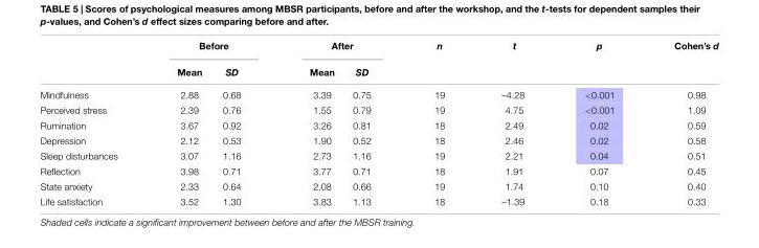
<table><thead><tr><td rowspan="2"></td><td colspan="2">Before</td><td colspan="2">After</td><td rowspan="2">n</td><td rowspan="2">t</td><td rowspan="2">p</td><td rowspan="2">Cohen’s d</td></tr><tr><td>Mean</td><td>SD</td><td>Mean</td><td>SD</td></tr></thead><tbody><tr><td>Mindfulness</td><td>2.88</td><td>0.68</td><td>3.39</td><td>0.75</td><td>19</td><td>–4.28</td><td>&lt;0.001</td><td>0.98</td></tr><tr><td>Perceived stress</td><td>2.39</td><td>0.76</td><td>1.55</td><td>0.79</td><td>19</td><td>4.75</td><td>&lt;0.001</td><td>1.09</td></tr><tr><td>Rumination</td><td>3.67</td><td>0.92</td><td>3.26</td><td>0.81</td><td>18</td><td>2.49</td><td>0.02</td><td>0.59</td></tr><tr><td>Depression</td><td>2.12</td><td>0.53</td><td>1.90</td><td>0.52</td><td>18</td><td>2.46</td><td>0.02</td><td>0.58</td></tr><tr><td>Sleep disturbances</td><td>3.07</td><td>1.16</td><td>2.73</td><td>1.16</td><td>19</td><td>2.21</td><td>0.04</td><td>0.51</td></tr><tr><td>Reflection</td><td>3.98</td><td>0.71</td><td>3.77</td><td>0.71</td><td>18</td><td>1.91</td><td>0.07</td><td>0.45</td></tr><tr><td>State anxiety</td><td>2.33</td><td>0.64</td><td>2.08</td><td>0.66</td><td>19</td><td>1.74</td><td>0.10</td><td>0.40</td></tr><tr><td>Life satisfaction</td><td>3.52</td><td>1.30</td><td>3.83</td><td>1.13</td><td>18</td><td>–1.39</td><td>0.18</td><td>0.33</td></tr></tbody></table>